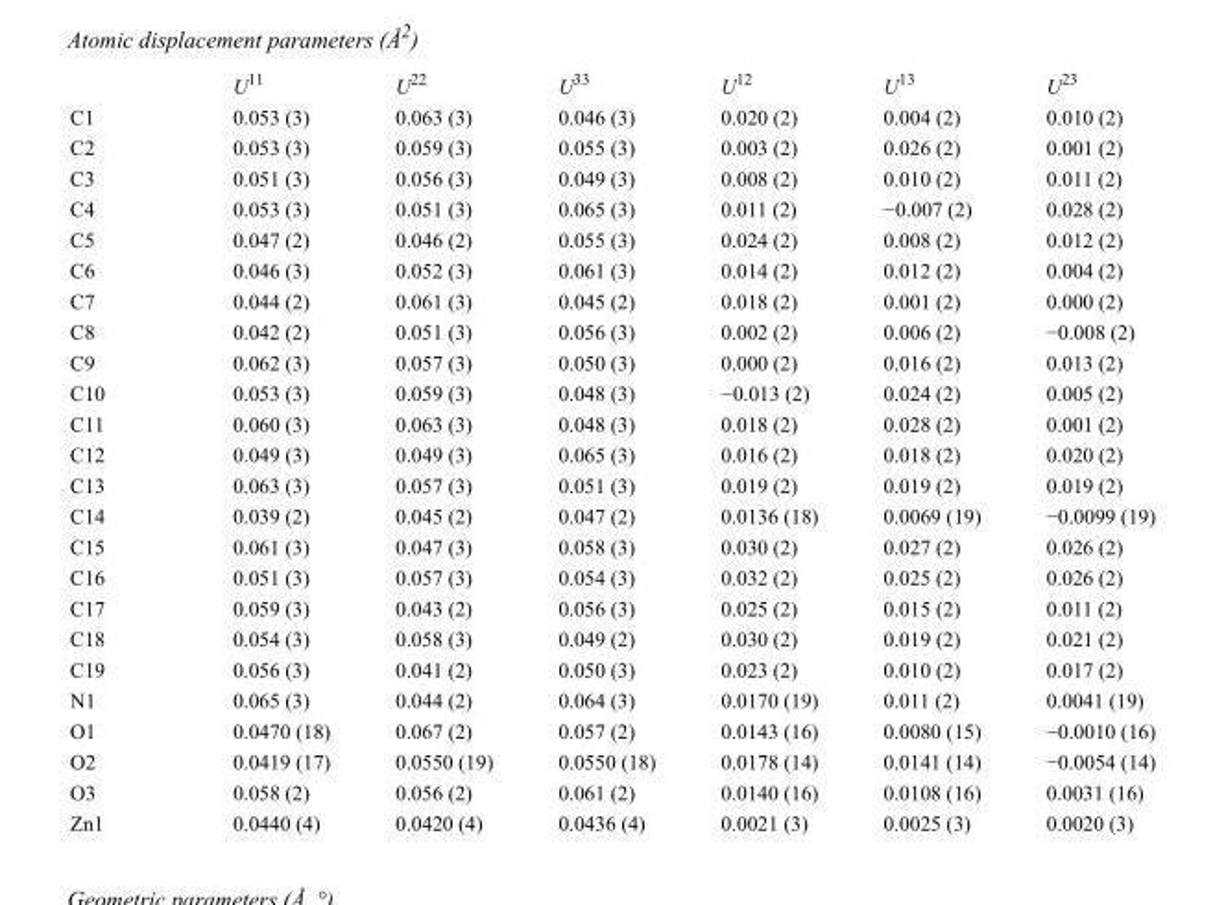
<table><thead><tr><td></td><td>U<sup>11</sup></td><td>U<sup>22</sup></td><td>U<sup>33</sup></td><td>U<sup>12</sup></td><td>U<sup>13</sup></td><td>U<sup>23</sup></td></tr></thead><tbody><tr><td>C1</td><td>0.053 (3)</td><td>0.063 (3)</td><td>0.046 (3)</td><td>0.020 (2)</td><td>0.004 (2)</td><td>0.010 (2)</td></tr><tr><td>C2</td><td>0.053 (3)</td><td>0.059 (3)</td><td>0.055 (3)</td><td>0.003 (2)</td><td>0.026 (2)</td><td>0.001 (2)</td></tr><tr><td>C3</td><td>0.051 (3)</td><td>0.056 (3)</td><td>0.049 (3)</td><td>0.008 (2)</td><td>0.010 (2)</td><td>0.011 (2)</td></tr><tr><td>C4</td><td>0.053 (3)</td><td>0.051 (3)</td><td>0.065 (3)</td><td>0.011 (2)</td><td>−0.007 (2)</td><td>0.028 (2)</td></tr><tr><td>C5</td><td>0.047 (2)</td><td>0.046 (2)</td><td>0.055 (3)</td><td>0.024 (2)</td><td>0.008 (2)</td><td>0.012 (2)</td></tr><tr><td>C6</td><td>0.046 (3)</td><td>0.052 (3)</td><td>0.061 (3)</td><td>0.014 (2)</td><td>0.012 (2)</td><td>0.004 (2)</td></tr><tr><td>C7</td><td>0.044 (2)</td><td>0.061 (3)</td><td>0.045 (2)</td><td>0.018 (2)</td><td>0.001 (2)</td><td>0.000 (2)</td></tr><tr><td>C8</td><td>0.042 (2)</td><td>0.051 (3)</td><td>0.056 (3)</td><td>0.002 (2)</td><td>0.006 (2)</td><td>−0.008 (2)</td></tr><tr><td>C9</td><td>0.062 (3)</td><td>0.057 (3)</td><td>0.050 (3)</td><td>0.000 (2)</td><td>0.016 (2)</td><td>0.013 (2)</td></tr><tr><td>C10</td><td>0.053 (3)</td><td>0.059 (3)</td><td>0.048 (3)</td><td>−0.013 (2)</td><td>0.024 (2)</td><td>0.005 (2)</td></tr><tr><td>C11</td><td>0.060 (3)</td><td>0.063 (3)</td><td>0.048 (3)</td><td>0.018 (2)</td><td>0.028 (2)</td><td>0.001 (2)</td></tr><tr><td>C12</td><td>0.049 (3)</td><td>0.049 (3)</td><td>0.065 (3)</td><td>0.016 (2)</td><td>0.018 (2)</td><td>0.020 (2)</td></tr><tr><td>C13</td><td>0.063 (3)</td><td>0.057 (3)</td><td>0.051 (3)</td><td>0.019 (2)</td><td>0.019 (2)</td><td>0.019 (2)</td></tr><tr><td>C14</td><td>0.039 (2)</td><td>0.045 (2)</td><td>0.047 (2)</td><td>0.0136 (18)</td><td>0.0069 (19)</td><td>−0.0099 (19)</td></tr><tr><td>C15</td><td>0.061 (3)</td><td>0.047 (3)</td><td>0.058 (3)</td><td>0.030 (2)</td><td>0.027 (2)</td><td>0.026 (2)</td></tr><tr><td>C16</td><td>0.051 (3)</td><td>0.057 (3)</td><td>0.054 (3)</td><td>0.032 (2)</td><td>0.025 (2)</td><td>0.026 (2)</td></tr><tr><td>C17</td><td>0.059 (3)</td><td>0.043 (2)</td><td>0.056 (3)</td><td>0.025 (2)</td><td>0.015 (2)</td><td>0.011 (2)</td></tr><tr><td>C18</td><td>0.054 (3)</td><td>0.058 (3)</td><td>0.049 (2)</td><td>0.030 (2)</td><td>0.019 (2)</td><td>0.021 (2)</td></tr><tr><td>C19</td><td>0.056 (3)</td><td>0.041 (2)</td><td>0.050 (3)</td><td>0.023 (2)</td><td>0.010 (2)</td><td>0.017 (2)</td></tr><tr><td>N1</td><td>0.065 (3)</td><td>0.044 (2)</td><td>0.064 (3)</td><td>0.0170 (19)</td><td>0.011 (2)</td><td>0.0041 (19)</td></tr><tr><td>O1</td><td>0.0470 (18)</td><td>0.067 (2)</td><td>0.057 (2)</td><td>0.0143 (16)</td><td>0.0080 (15)</td><td>−0.0010 (16)</td></tr><tr><td>O2</td><td>0.0419 (17)</td><td>0.0550 (19)</td><td>0.0550 (18)</td><td>0.0178 (14)</td><td>0.0141 (14)</td><td>−0.0054 (14)</td></tr><tr><td>O3</td><td>0.058 (2)</td><td>0.056 (2)</td><td>0.061 (2)</td><td>0.0140 (16)</td><td>0.0108 (16)</td><td>0.0031 (16)</td></tr><tr><td>Zn1</td><td>0.0440 (4)</td><td>0.0420 (4)</td><td>0.0436 (4)</td><td>0.0021 (3)</td><td>0.0025 (3)</td><td>0.0020 (3)</td></tr></tbody></table>